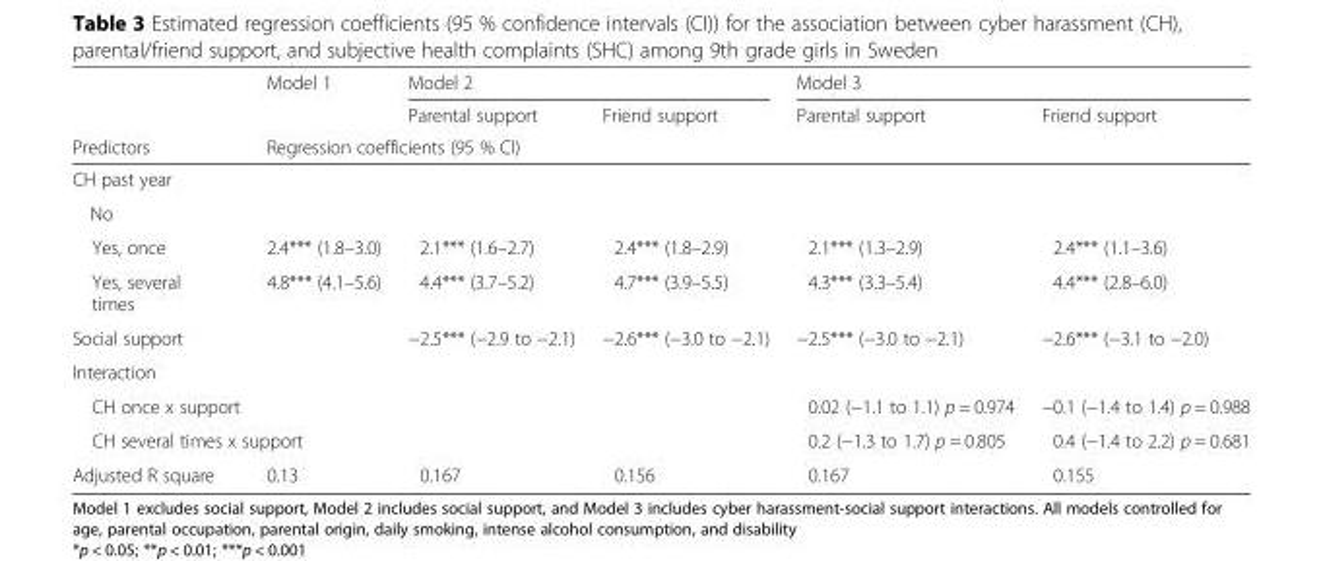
<table><thead><tr><td rowspan="3">Predictors</td><td rowspan="2">Model 1</td><td colspan="2">Model 2</td><td colspan="2">Model 3</td></tr><tr><td>Parental support</td><td>Friend support</td><td>Parental support</td><td>Friend support</td></tr><tr><td colspan="5">Regression coefficients (95 % CI)</td></tr></thead><tbody><tr><td colspan="6">CH past year</td></tr><tr><td colspan="6">No</td></tr><tr><td>Yes, once</td><td>2.4*** (1.8–3.0)</td><td>2.1*** (1.6–2.7)</td><td>2.4*** (1.8–2.9)</td><td>2.1*** (1.3–2.9)</td><td>2.4*** (1.1–3.6)</td></tr><tr><td>Yes, several times</td><td>4.8*** (4.1–5.6)</td><td>4.4*** (3.7–5.2)</td><td>4.7*** (3.9–5.5)</td><td>4.3*** (3.3–5.4)</td><td>4.4*** (2.8–6.0)</td></tr><tr><td>Social support</td><td></td><td>−2.5*** (−2.9 to −2.1)</td><td>−2.6*** (−3.0 to −2.1)</td><td>−2.5*** (−3.0 to −2.1)</td><td>−2.6*** (−3.1 to −2.0)</td></tr><tr><td colspan="6">Interaction</td></tr><tr><td>CH once x support</td><td></td><td></td><td></td><td>0.02 (−1.1 to 1.1) p = 0.974</td><td>−0.1 (−1.4 to 1.4) p = 0.988</td></tr><tr><td colspan="2">CH several times x support</td><td></td><td></td><td>0.2 (−1.3 to 1.7) p = 0.805</td><td>0.4 (−1.4 to 2.2) p = 0.681</td></tr><tr><td>Adjusted R square</td><td>0.13</td><td>0.167</td><td>0.156</td><td>0.167</td><td>0.155</td></tr></tbody></table>